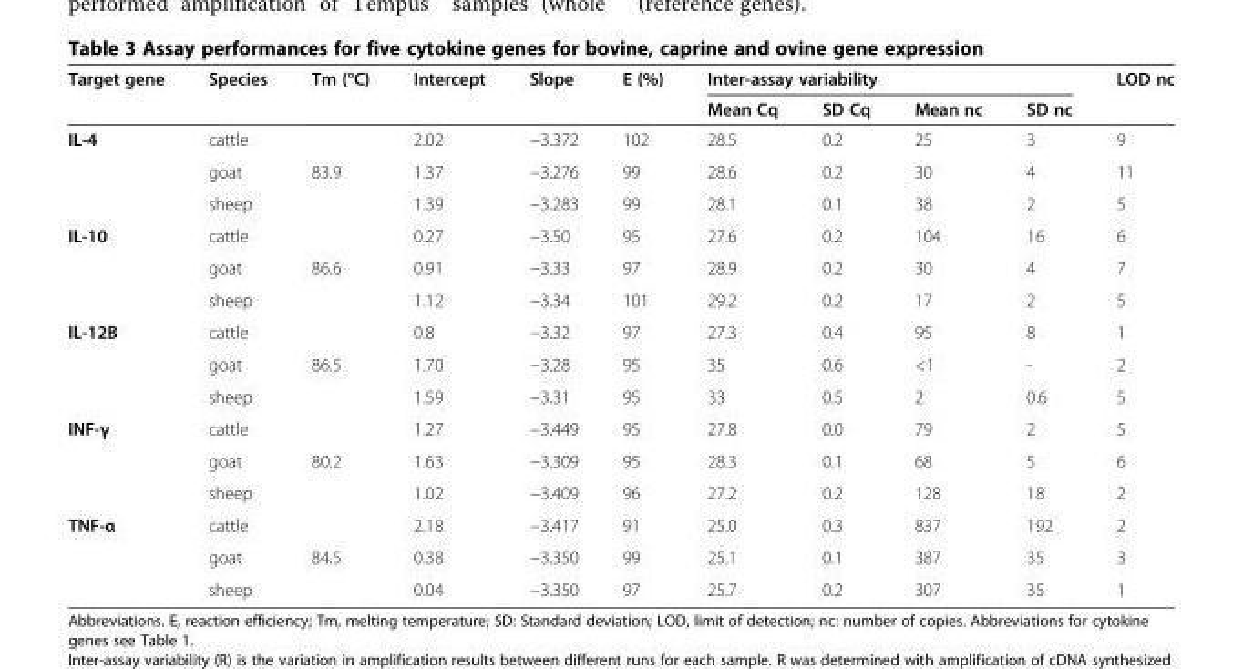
<table><thead><tr><td rowspan="2">Target gene</td><td rowspan="2">Species</td><td rowspan="2">Tm (°C)</td><td rowspan="2">Intercept</td><td rowspan="2">Slope</td><td rowspan="2">E (%)</td><td colspan="4">Inter-assay variability</td><td rowspan="2">LOD nc</td></tr><tr><td>Mean Cq</td><td>SD Cq</td><td>Mean nc</td><td>SD nc</td></tr></thead><tbody><tr><td rowspan="3">IL-4</td><td>cattle</td><td rowspan="3">83.9</td><td>2.02</td><td>−3.372</td><td>102</td><td>28.5</td><td>0.2</td><td>25</td><td>3</td><td>9</td></tr><tr><td>goat</td><td>1.37</td><td>−3.276</td><td>99</td><td>28.6</td><td>0.2</td><td>30</td><td>4</td><td>11</td></tr><tr><td>sheep</td><td>1.39</td><td>−3.283</td><td>99</td><td>28.1</td><td>0.1</td><td>38</td><td>2</td><td>5</td></tr><tr><td rowspan="3">IL-10</td><td>cattle</td><td rowspan="3">86.6</td><td>0.27</td><td>−3.50</td><td>95</td><td>27.6</td><td>0.2</td><td>104</td><td>16</td><td>6</td></tr><tr><td>goat</td><td>0.91</td><td>−3.33</td><td>97</td><td>28.9</td><td>0.2</td><td>30</td><td>4</td><td>7</td></tr><tr><td>sheep</td><td>1.12</td><td>−3.34</td><td>101</td><td>29.2</td><td>0.2</td><td>17</td><td>2</td><td>5</td></tr><tr><td rowspan="3">IL-12B</td><td>cattle</td><td rowspan="3">86.5</td><td>0.8</td><td>−3.32</td><td>97</td><td>27.3</td><td>0.4</td><td>95</td><td>8</td><td>1</td></tr><tr><td>goat</td><td>1.70</td><td>−3.28</td><td>95</td><td>35</td><td>0.6</td><td>&lt;1</td><td>-</td><td>2</td></tr><tr><td>sheep</td><td>1.59</td><td>−3.31</td><td>95</td><td>33</td><td>0.5</td><td>2</td><td>0.6</td><td>5</td></tr><tr><td rowspan="3">INF-γ</td><td>cattle</td><td rowspan="3">80.2</td><td>1.27</td><td>−3.449</td><td>95</td><td>27.8</td><td>0.0</td><td>79</td><td>2</td><td>5</td></tr><tr><td>goat</td><td>1.63</td><td>−3.309</td><td>95</td><td>28.3</td><td>0.1</td><td>68</td><td>5</td><td>6</td></tr><tr><td>sheep</td><td>1.02</td><td>−3.409</td><td>96</td><td>27.2</td><td>0.2</td><td>128</td><td>18</td><td>2</td></tr><tr><td rowspan="3">TNF-α</td><td>cattle</td><td rowspan="3">84.5</td><td>2.18</td><td>−3.417</td><td>91</td><td>25.0</td><td>0.3</td><td>837</td><td>192</td><td>2</td></tr><tr><td>goat</td><td>0.38</td><td>−3.350</td><td>99</td><td>25.1</td><td>0.1</td><td>387</td><td>35</td><td>3</td></tr><tr><td>sheep</td><td>0.04</td><td>−3.350</td><td>97</td><td>25.7</td><td>0.2</td><td>307</td><td>35</td><td>1</td></tr></tbody></table>